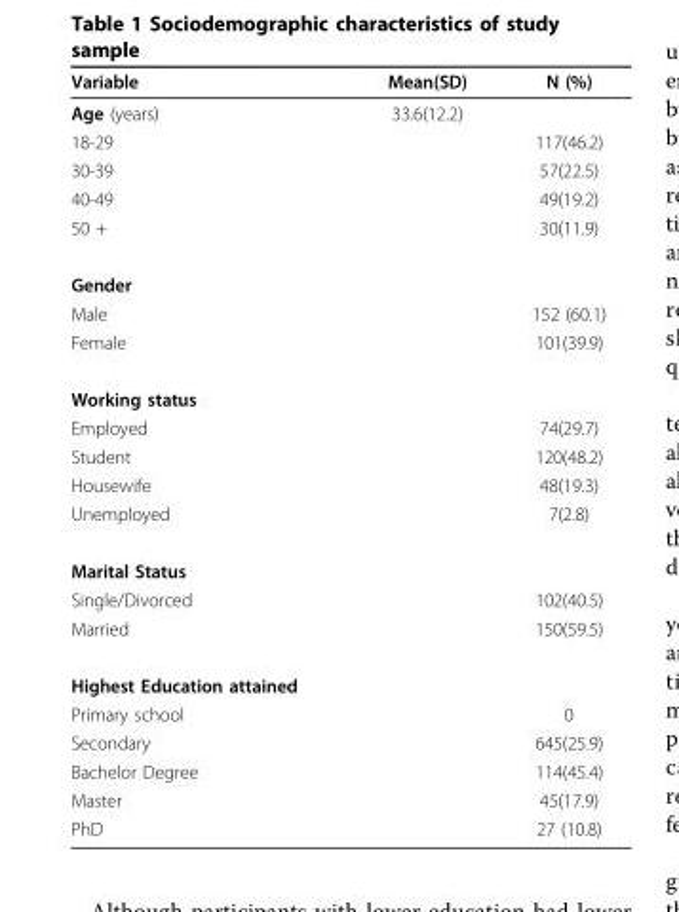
<table><thead><tr><td>Variable</td><td>Mean(SD)</td><td>N (%)</td></tr></thead><tbody><tr><td>Age (years)</td><td>33.6(12.2)</td><td></td></tr><tr><td>18-29</td><td></td><td>117(46.2)</td></tr><tr><td>30-39</td><td></td><td>57(22.5)</td></tr><tr><td>40-49</td><td></td><td>49(19.2)</td></tr><tr><td>50 +</td><td></td><td>30(11.9)</td></tr><tr><td colspan="3">Gender</td></tr><tr><td>Male</td><td></td><td>152 (60.1)</td></tr><tr><td>Female</td><td></td><td>101(39.9)</td></tr><tr><td colspan="3">Working status</td></tr><tr><td>Employed</td><td></td><td>74(29.7)</td></tr><tr><td>Student</td><td></td><td>120(48.2)</td></tr><tr><td>Housewife</td><td></td><td>48(19.3)</td></tr><tr><td>Unemployed</td><td></td><td>7(2.8)</td></tr><tr><td colspan="3">Marital Status</td></tr><tr><td>Single/Divorced</td><td></td><td>102(40.5)</td></tr><tr><td>Married</td><td></td><td>150(59.5)</td></tr><tr><td colspan="3">Highest Education attained</td></tr><tr><td>Primary school</td><td></td><td>0</td></tr><tr><td>Secondary</td><td></td><td>645(25.9)</td></tr><tr><td>Bachelor Degree</td><td></td><td>114(45.4)</td></tr><tr><td>Master</td><td></td><td>45(17.9)</td></tr><tr><td>PhD</td><td></td><td>27 (10.8)</td></tr></tbody></table>